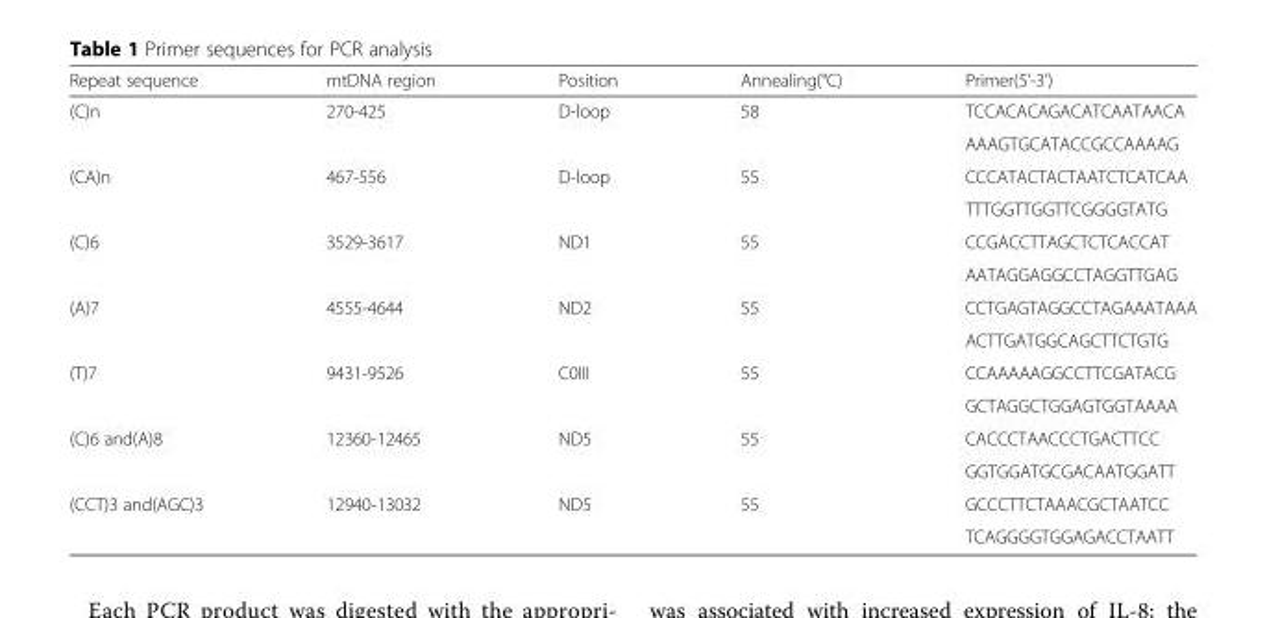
<table><thead><tr><td>Repeat sequence</td><td>mtDNA region</td><td>Position</td><td>Annealing(°C)</td><td>Primer(5’-3’)</td></tr></thead><tbody><tr><td rowspan="2">(C)n</td><td>270-425</td><td>D-loop</td><td>58</td><td>TCCACACAGACATCAATAACA</td></tr><tr><td></td><td></td><td></td><td>AAAGTGCATACCGCCAAAAG</td></tr><tr><td rowspan="2">(CA)n</td><td>467-556</td><td>D-loop</td><td>55</td><td>CCCATACTACTAATCTCATCAA</td></tr><tr><td></td><td></td><td></td><td>TTTGGTTGGTTCGGGGTATG</td></tr><tr><td rowspan="2">(C)6</td><td>3529-3617</td><td>ND1</td><td>55</td><td>CCGACCTTAGCTCTCACCAT</td></tr><tr><td></td><td></td><td></td><td>AATAGGAGGCCTAGGTTGAG</td></tr><tr><td rowspan="2">(A)7</td><td>4555-4644</td><td>ND2</td><td>55</td><td>CCTGAGTAGGCCTAGAAATAAA</td></tr><tr><td></td><td></td><td></td><td>ACTTGATGGCAGCTTCTGTG</td></tr><tr><td rowspan="2">(T)7</td><td>9431-9526</td><td>C0III</td><td>55</td><td>CCAAAAAGGCCTTCGATACG</td></tr><tr><td></td><td></td><td></td><td>GCTAGGCTGGAGTGGTAAAA</td></tr><tr><td rowspan="2">(C)6 and(A)8</td><td>12360-12465</td><td>ND5</td><td>55</td><td>CACCCTAACCCTGACTTCC</td></tr><tr><td></td><td></td><td></td><td>GGTGGATGCGACAATGGATT</td></tr><tr><td rowspan="2">(CCT)3 and(AGC)3</td><td>12940-13032</td><td>ND5</td><td>55</td><td>GCCCTTCTAAACGCTAATCC</td></tr><tr><td></td><td></td><td></td><td>TCAGGGGTGGAGACCTAATT</td></tr></tbody></table>